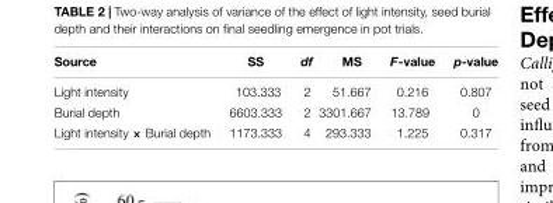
<table><thead><tr><td>Source</td><td>SS</td><td>df</td><td>MS</td><td>F-value</td><td>p-value</td></tr></thead><tbody><tr><td>Light intensity</td><td>103.333</td><td>2</td><td>51.667</td><td>0.216</td><td>0.807</td></tr><tr><td>Burial depth</td><td>6603.333</td><td>2</td><td>3301.667</td><td>13.789</td><td>0</td></tr><tr><td>Light intensity × Burial depth</td><td>1173.333</td><td>4</td><td>293.333</td><td>1.225</td><td>0.317</td></tr></tbody></table>